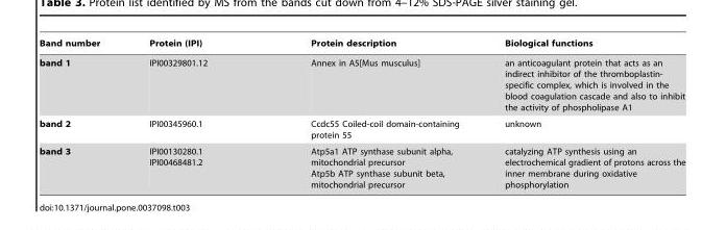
<table><thead><tr><td>Band number</td><td>Protein (IPI)</td><td>Protein description</td><td>Biological functions</td></tr></thead><tbody><tr><td>band 1</td><td>IPI00329801.12</td><td>Annex in A5[Mus musculus]</td><td>an anticoagulant protein that acts as an indirect inhibitor of the thromboplastin- specific complex, which is involved in the blood coagulation cascade and also to inhibit the activity of phospholipase A1</td></tr><tr><td>band 2</td><td>IPI00345960.1</td><td>Ccdc55 Coiled-coil domain-containing protein 55</td><td>unknown</td></tr><tr><td>band 3</td><td>IPI00130280.1 IPI00468481.2</td><td>Atp5a1 ATP synthase subunit alpha, mitochondrial precursor Atp5b ATP synthase subunit beta, mitochondrial precursor</td><td>catalyzing ATP synthesis using an electrochemical gradient of protons across the inner membrane during oxidative phosphorylation</td></tr></tbody></table>